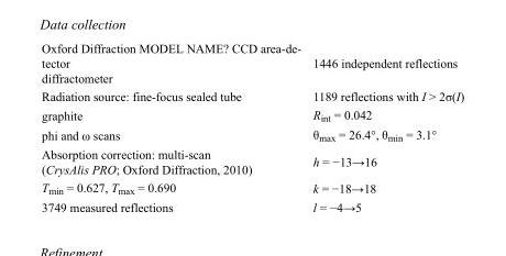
<table><tbody><tr><td>Oxford Diffraction MODEL NAME? CCD area-de- tector diffractometer</td><td>1446 independent reflections</td></tr><tr><td>Radiation source: fine-focus sealed tube</td><td>1189 reflections with I &gt; 2σ(I)</td></tr><tr><td>graphite</td><td>R<sub>int</sub> = 0.042</td></tr><tr><td>phi and ω scans</td><td>θ<sub>max</sub> = 26.4°, θ<sub>min</sub> = 3.1°</td></tr><tr><td>Absorption correction: multi-scan (CrysAlis PRO; Oxford Diffraction, 2010)</td><td>h = −13→16</td></tr><tr><td>T<sub>min</sub> = 0.627, T<sub>max</sub> = 0.690</td><td>k = −18→18</td></tr><tr><td>3749 measured reflections</td><td>l = −4→5</td></tr></tbody></table>